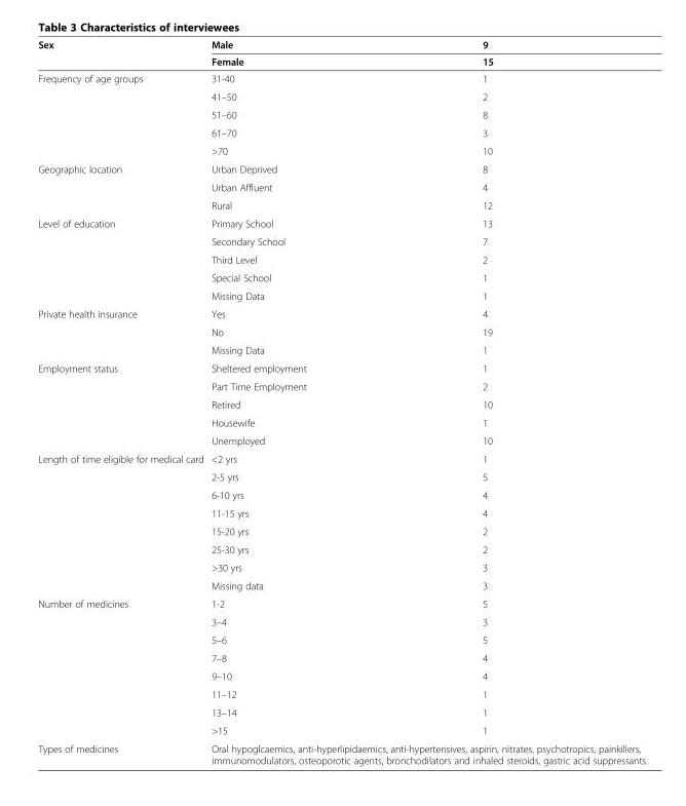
<table><thead><tr><td rowspan="2">Sex</td><td rowspan="2">Male Female</td><td rowspan="2">9 15</td></tr><tr></tr></thead><tbody><tr><td rowspan="5">Frequency of age groups</td><td>31-40</td><td>1</td></tr><tr><td>41–50</td><td>2</td></tr><tr><td>51–60</td><td>8</td></tr><tr><td>61–70</td><td>3</td></tr><tr><td>&gt;70</td><td>10</td></tr><tr><td rowspan="3">Geographic location</td><td>Urban Deprived</td><td>8</td></tr><tr><td>Urban Affluent</td><td>4</td></tr><tr><td>Rural</td><td>12</td></tr><tr><td rowspan="5">Level of education</td><td>Primary School</td><td>13</td></tr><tr><td>Secondary School</td><td>7</td></tr><tr><td>Third Level</td><td>2</td></tr><tr><td>Special School</td><td>1</td></tr><tr><td>Missing Data</td><td>1</td></tr><tr><td rowspan="3">Private health insurance</td><td>Yes</td><td>4</td></tr><tr><td>No</td><td>19</td></tr><tr><td>Missing Data</td><td>1</td></tr><tr><td rowspan="5">Employment status</td><td>Sheltered employment</td><td>1</td></tr><tr><td>Part Time Employment</td><td>2</td></tr><tr><td>Retired</td><td>10</td></tr><tr><td>Housewife</td><td>1</td></tr><tr><td>Unemployed</td><td>10</td></tr><tr><td rowspan="8">Length of time eligible for medical card</td><td>&lt;2 yrs</td><td>1</td></tr><tr><td>2-5 yrs</td><td>5</td></tr><tr><td>6-10 yrs</td><td>4</td></tr><tr><td>11-15 yrs</td><td>4</td></tr><tr><td>15-20 yrs</td><td>2</td></tr><tr><td>25-30 yrs</td><td>2</td></tr><tr><td>&gt;30 yrs</td><td>3</td></tr><tr><td>Missing data</td><td>3</td></tr><tr><td rowspan="8">Number of medicines</td><td>1-2</td><td>5</td></tr><tr><td>3–4</td><td>3</td></tr><tr><td>5–6</td><td>5</td></tr><tr><td>7–8</td><td>4</td></tr><tr><td>9–10</td><td>4</td></tr><tr><td>11–12</td><td>1</td></tr><tr><td>13–14</td><td>1</td></tr><tr><td>&gt;15</td><td>1</td></tr><tr><td>Types of medicines</td><td colspan="2">Oral hypoglcaemics, anti-hyperlipidaemics, anti-hypertensives, aspirin, nitrates, psychotropics, painkillers, immunomodulators, osteoporotic agents, bronchodilators and inhaled steroids, gastric acid suppressants.</td></tr></tbody></table>